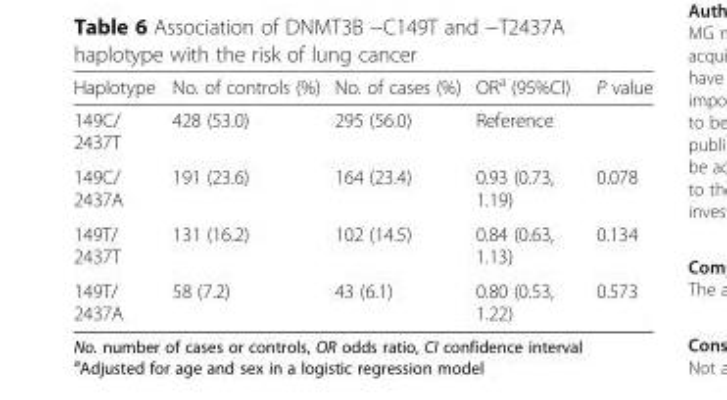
<table><thead><tr><td>Haplotype</td><td>No. of controls (%)</td><td>No. of cases (%)</td><td>OR<sup>a</sup> (95%CI)</td><td>P value</td></tr></thead><tbody><tr><td>149C/ 2437T</td><td>428 (53.0)</td><td>295 (56.0)</td><td>Reference</td><td></td></tr><tr><td>149C/ 2437A</td><td>191 (23.6)</td><td>164 (23.4)</td><td>0.93 (0.73, 1.19)</td><td>0.078</td></tr><tr><td>149T/ 2437T</td><td>131 (16.2)</td><td>102 (14.5)</td><td>0.84 (0.63, 1.13)</td><td>0.134</td></tr><tr><td>149T/ 2437A</td><td>58 (7.2)</td><td>43 (6.1)</td><td>0.80 (0.53, 1.22)</td><td>0.573</td></tr></tbody></table>